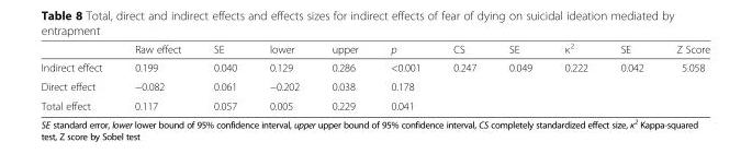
<table><thead><tr><td></td><td>Raw effect</td><td>SE</td><td>lower</td><td>upper</td><td>p</td><td>CS</td><td>SE</td><td>κ<sup>2</sup></td><td>SE</td><td>Z Score</td></tr></thead><tbody><tr><td>Indirect effect</td><td>0.199</td><td>0.040</td><td>0.129</td><td>0.286</td><td>&lt;0.001</td><td>0.247</td><td>0.049</td><td>0.222</td><td>0.042</td><td>5.058</td></tr><tr><td>Direct effect</td><td>−0.082</td><td>0.061</td><td>−0.202</td><td>0.038</td><td>0.178</td><td></td><td></td><td></td><td></td><td></td></tr><tr><td>Total effect</td><td>0.117</td><td>0.057</td><td>0.005</td><td>0.229</td><td>0.041</td><td></td><td></td><td></td><td></td><td></td></tr></tbody></table>